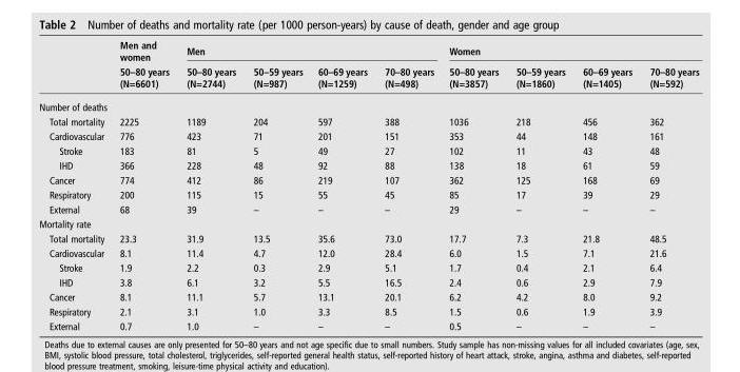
<table><thead><tr><td rowspan="2"></td><td rowspan="2">Men and women 50–80 years (N=6601)</td><td colspan="4">Men</td><td colspan="4">Women</td></tr><tr><td>50–80 years (N=2744)</td><td>50–59 years (N=987)</td><td>60–69 years (N=1259)</td><td>70–80 years (N=498)</td><td>50–80 years (N=3857)</td><td>50–59 years (N=1860)</td><td>60–69 years (N=1405)</td><td>70–80 years (N=592)</td></tr></thead><tbody><tr><td colspan="10">Number of deaths</td></tr><tr><td>Total mortality</td><td>2225</td><td>1189</td><td>204</td><td>597</td><td>388</td><td>1036</td><td>218</td><td>456</td><td>362</td></tr><tr><td>Cardiovascular</td><td>776</td><td>423</td><td>71</td><td>201</td><td>151</td><td>353</td><td>44</td><td>148</td><td>161</td></tr><tr><td>Stroke</td><td>183</td><td>81</td><td>5</td><td>49</td><td>27</td><td>102</td><td>11</td><td>43</td><td>48</td></tr><tr><td>IHD</td><td>366</td><td>228</td><td>48</td><td>92</td><td>88</td><td>138</td><td>18</td><td>61</td><td>59</td></tr><tr><td>Cancer</td><td>774</td><td>412</td><td>86</td><td>219</td><td>107</td><td>362</td><td>125</td><td>168</td><td>69</td></tr><tr><td>Respiratory</td><td>200</td><td>115</td><td>15</td><td>55</td><td>45</td><td>85</td><td>17</td><td>39</td><td>29</td></tr><tr><td>External</td><td>68</td><td>39</td><td>–</td><td>–</td><td>–</td><td>29</td><td>–</td><td>–</td><td>–</td></tr><tr><td colspan="10">Mortality rate</td></tr><tr><td>Total mortality</td><td>23.3</td><td>31.9</td><td>13.5</td><td>35.6</td><td>73.0</td><td>17.7</td><td>7.3</td><td>21.8</td><td>48.5</td></tr><tr><td>Cardiovascular</td><td>8.1</td><td>11.4</td><td>4.7</td><td>12.0</td><td>28.4</td><td>6.0</td><td>1.5</td><td>7.1</td><td>21.6</td></tr><tr><td>Stroke</td><td>1.9</td><td>2.2</td><td>0.3</td><td>2.9</td><td>5.1</td><td>1.7</td><td>0.4</td><td>2.1</td><td>6.4</td></tr><tr><td>IHD</td><td>3.8</td><td>6.1</td><td>3.2</td><td>5.5</td><td>16.5</td><td>2.4</td><td>0.6</td><td>2.9</td><td>7.9</td></tr><tr><td>Cancer</td><td>8.1</td><td>11.1</td><td>5.7</td><td>13.1</td><td>20.1</td><td>6.2</td><td>4.2</td><td>8.0</td><td>9.2</td></tr><tr><td>Respiratory</td><td>2.1</td><td>3.1</td><td>1.0</td><td>3.3</td><td>8.5</td><td>1.5</td><td>0.6</td><td>1.9</td><td>3.9</td></tr><tr><td>External</td><td>0.7</td><td>1.0</td><td>–</td><td>–</td><td>–</td><td>0.5</td><td>–</td><td>–</td><td>–</td></tr></tbody></table>